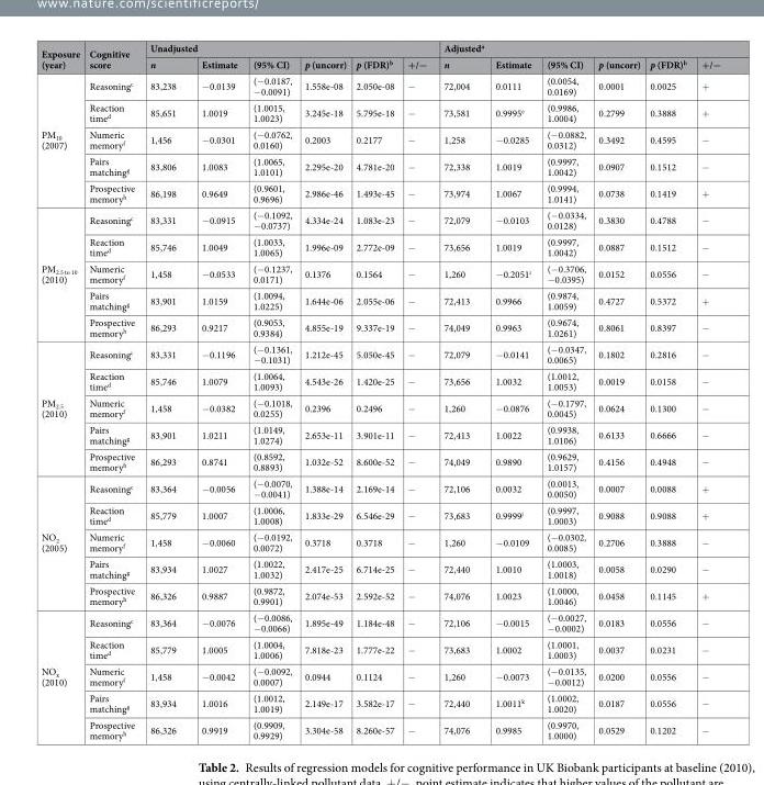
<table><thead><tr><td rowspan="2">Exposure (year)</td><td rowspan="2">Cognitive score</td><td colspan="6">Unadjusted</td><td colspan="6">Adjusted<sup>a</sup></td></tr><tr><td>n</td><td>Estimate</td><td>(95% CI)</td><td>p (uncorr)</td><td>p (FDR)<sup>b</sup></td><td>+/−</td><td>n</td><td>Estimate</td><td>(95% CI)</td><td>p (uncorr)</td><td>p (FDR)<sup>b</sup></td><td>+/−</td></tr></thead><tbody><tr><td rowspan="5">PM<sub>10</sub> (2007)</td><td>Reasoning<sup>c</sup></td><td>83,238</td><td>−0.0139</td><td>(−0.0187, −0.0091)</td><td>1.558e-08</td><td>2.050e-08</td><td>−</td><td>72,004</td><td>0.0111</td><td>(0.0054, 0.0169)</td><td>0.0001</td><td>0.0025</td><td>+</td></tr><tr><td>Reaction time<sup>d</sup></td><td>85,651</td><td>1.0019</td><td>(1.0015, 1.0023)</td><td>3.245e-18</td><td>5.795e-18</td><td>−</td><td>73,581</td><td>0.9995<sup>e</sup></td><td>(0.9986, 1.0004)</td><td>0.2799</td><td>0.3888</td><td>+</td></tr><tr><td>Numeric memory<sup>f</sup></td><td>1,456</td><td>−0.0301</td><td>(−0.0762, 0.0160)</td><td>0.2003</td><td>0.2177</td><td>−</td><td>1,258</td><td>−0.0285</td><td>(−0.0882, 0.0312)</td><td>0.3492</td><td>0.4595</td><td>−</td></tr><tr><td>Pairs matching<sup>g</sup></td><td>83,806</td><td>1.0083</td><td>(1.0065, 1.0101)</td><td>2.295e-20</td><td>4.781e-20</td><td>−</td><td>72,338</td><td>1.0019</td><td>(0.9997, 1.0042)</td><td>0.0907</td><td>0.1512</td><td>−</td></tr><tr><td>Prospective memory<sup>h</sup></td><td>86,198</td><td>0.9649</td><td>(0.9601, 0.9696)</td><td>2.986e-46</td><td>1.493e-45</td><td>−</td><td>73,974</td><td>1.0067</td><td>(0.9994, 1.0141)</td><td>0.0738</td><td>0.1419</td><td>+</td></tr><tr><td rowspan="5">PM<sub>2.5 to 10</sub> (2010)</td><td>Reasoning<sup>c</sup></td><td>83,331</td><td>−0.0915</td><td>(−0.1092, −0.0737)</td><td>4.334e-24</td><td>1.083e-23</td><td>−</td><td>72,079</td><td>−0.0103</td><td>(−0.0334, 0.0128)</td><td>0.3830</td><td>0.4788</td><td>−</td></tr><tr><td>Reaction time<sup>d</sup></td><td>85,746</td><td>1.0049</td><td>(1.0033, 1.0065)</td><td>1.996e-09</td><td>2.772e-09</td><td>−</td><td>73,656</td><td>1.0019</td><td>(0.9997, 1.0042)</td><td>0.0887</td><td>0.1512</td><td>−</td></tr><tr><td>Numeric memory<sup>f</sup></td><td>1,458</td><td>−0.0533</td><td>(−0.1237, 0.0171)</td><td>0.1376</td><td>0.1564</td><td>−</td><td>1,260</td><td>−0.2051<sup>i</sup></td><td>(−0.3706, −0.0395)</td><td>0.0152</td><td>0.0556</td><td>−</td></tr><tr><td>Pairs matching<sup>g</sup></td><td>83,901</td><td>1.0159</td><td>(1.0094, 1.0225)</td><td>1.644e-06</td><td>2.055e-06</td><td>−</td><td>72,413</td><td>0.9966</td><td>(0.9874, 1.0059)</td><td>0.4727</td><td>0.5372</td><td>+</td></tr><tr><td>Prospective memory<sup>h</sup></td><td>86,293</td><td>0.9217</td><td>(0.9053, 0.9384)</td><td>4.855e-19</td><td>9.337e-19</td><td>−</td><td>74,049</td><td>0.9963</td><td>(0.9674, 1.0261)</td><td>0.8061</td><td>0.8397</td><td>−</td></tr><tr><td rowspan="5">PM<sub>2.5</sub> (2010)</td><td>Reasoning<sup>c</sup></td><td>83,331</td><td>−0.1196</td><td>(−0.1361, −0.1031)</td><td>1.212e-45</td><td>5.050e-45</td><td>−</td><td>72,079</td><td>−0.0141</td><td>(−0.0347, 0.0065)</td><td>0.1802</td><td>0.2816</td><td>−</td></tr><tr><td>Reaction time<sup>d</sup></td><td>85,746</td><td>1.0079</td><td>(1.0064, 1.0093)</td><td>4.543e-26</td><td>1.420e-25</td><td>−</td><td>73,656</td><td>1.0032</td><td>(1.0012, 1.0053)</td><td>0.0019</td><td>0.0158</td><td>−</td></tr><tr><td>Numeric memory<sup>f</sup></td><td>1,458</td><td>−0.0382</td><td>(−0.1018, 0.0255)</td><td>0.2396</td><td>0.2496</td><td>−</td><td>1,260</td><td>−0.0876</td><td>(−0.1797, 0.0045)</td><td>0.0624</td><td>0.1300</td><td>−</td></tr><tr><td>Pairs matching<sup>g</sup></td><td>83,901</td><td>1.0211</td><td>(1.0149, 1.0274)</td><td>2.653e-11</td><td>3.901e-11</td><td>−</td><td>72,413</td><td>1.0022</td><td>(0.9938, 1.0106)</td><td>0.6133</td><td>0.6666</td><td>−</td></tr><tr><td>Prospective memory<sup>h</sup></td><td>86,293</td><td>0.8741</td><td>(0.8592, 0.8893)</td><td>1.032e-52</td><td>8.600e-52</td><td>−</td><td>74,049</td><td>0.9890</td><td>(0.9629, 1.0157)</td><td>0.4156</td><td>0.4948</td><td>−</td></tr><tr><td rowspan="5">NO<sub>2</sub> (2005)</td><td>Reasoning<sup>c</sup></td><td>83,364</td><td>−0.0056</td><td>(−0.0070, −0.0041)</td><td>1.388e-14</td><td>2.169e-14</td><td>−</td><td>72,106</td><td>0.0032</td><td>(0.0013, 0.0050)</td><td>0.0007</td><td>0.0088</td><td>+</td></tr><tr><td>Reaction time<sup>d</sup></td><td>85,779</td><td>1.0007</td><td>(1.0006, 1.0008)</td><td>1.833e-29</td><td>6.546e-29</td><td>−</td><td>73,683</td><td>0.9999<sup>j</sup></td><td>(0.9997, 1.0003)</td><td>0.9088</td><td>0.9088</td><td>+</td></tr><tr><td>Numeric memory<sup>f</sup></td><td>1,458</td><td>−0.0060</td><td>(−0.0192, 0.0072)</td><td>0.3718</td><td>0.3718</td><td>−</td><td>1,260</td><td>−0.0109</td><td>(−0.0302, 0.0085)</td><td>0.2706</td><td>0.3888</td><td>−</td></tr><tr><td>Pairs matching<sup>g</sup></td><td>83,934</td><td>1.0027</td><td>(1.0022, 1.0032)</td><td>2.417e-25</td><td>6.714e-25</td><td>−</td><td>72,440</td><td>1.0010</td><td>(1.0003, 1.0018)</td><td>0.0058</td><td>0.0290</td><td>−</td></tr><tr><td>Prospective memory<sup>h</sup></td><td>86,326</td><td>0.9887</td><td>(0.9872, 0.9901)</td><td>2.074e-53</td><td>2.592e-52</td><td>−</td><td>74,076</td><td>1.0023</td><td>(1.0000, 1.0046)</td><td>0.0458</td><td>0.1145</td><td>+</td></tr><tr><td rowspan="5">NO<sub>x</sub> (2010)</td><td>Reasoning<sup>c</sup></td><td>83,364</td><td>−0.0076</td><td>(−0.0086, −0.0066)</td><td>1.895e-49</td><td>1.184e-48</td><td>−</td><td>72,106</td><td>−0.0015</td><td>(−0.0027, −0.0002)</td><td>0.0183</td><td>0.0556</td><td>−</td></tr><tr><td>Reaction time<sup>d</sup></td><td>85,779</td><td>1.0005</td><td>(1.0004, 1.0006)</td><td>7.818e-23</td><td>1.777e-22</td><td>−</td><td>73,683</td><td>1.0002</td><td>(1.0001, 1.0003)</td><td>0.0037</td><td>0.0231</td><td>−</td></tr><tr><td>Numeric memory<sup>f</sup></td><td>1,458</td><td>−0.0042</td><td>(−0.0092, 0.0007)</td><td>0.0944</td><td>0.1124</td><td>−</td><td>1,260</td><td>−0.0073</td><td>(−0.0135, −0.0012)</td><td>0.0200</td><td>0.0556</td><td>−</td></tr><tr><td>Pairs matching<sup>g</sup></td><td>83,934</td><td>1.0016</td><td>(1.0012, 1.0019)</td><td>2.149e-17</td><td>3.582e-17</td><td>−</td><td>72,440</td><td>1.0011<sup>k</sup></td><td>(1.0002, 1.0020)</td><td>0.0187</td><td>0.0556</td><td>−</td></tr><tr><td>Prospective memory<sup>h</sup></td><td>86,326</td><td>0.9919</td><td>(0.9909, 0.9929)</td><td>3.304e-58</td><td>8.260e-57</td><td>−</td><td>74,076</td><td>0.9985</td><td>(0.9970, 1.0000)</td><td>0.0529</td><td>0.1202</td><td>−</td></tr></tbody></table>